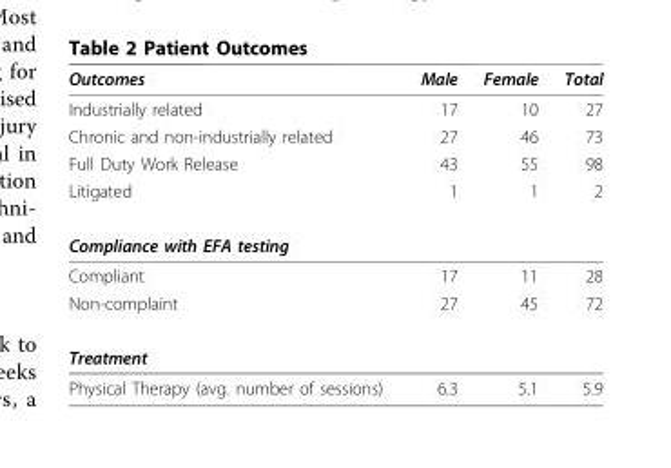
<table><thead><tr><td>Outcomes</td><td>Male</td><td>Female</td><td>Total</td></tr></thead><tbody><tr><td>Industrially related</td><td>17</td><td>10</td><td>27</td></tr><tr><td>Chronic and non-industrially related</td><td>27</td><td>46</td><td>73</td></tr><tr><td>Full Duty Work Release</td><td>43</td><td>55</td><td>98</td></tr><tr><td>Litigated</td><td>1</td><td>1</td><td>2</td></tr><tr><td colspan="4">Compliance with EFA testing</td></tr><tr><td>Compliant</td><td>17</td><td>11</td><td>28</td></tr><tr><td>Non-complaint</td><td>27</td><td>45</td><td>72</td></tr><tr><td colspan="4">Treatment</td></tr><tr><td>Physical Therapy (avg. number of sessions)</td><td>6.3</td><td>5.1</td><td>5.9</td></tr></tbody></table>